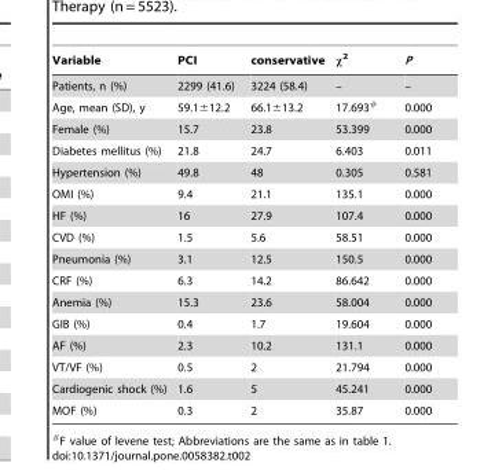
<table><thead><tr><td>Variable</td><td>PCI</td><td>conservative</td><td>x2</td><td>P</td></tr></thead><tbody><tr><td>Patients, n (%)</td><td>2299 (41.6)</td><td>3224 (58.4)</td><td>–</td><td>–</td></tr><tr><td>Age, mean (SD), y</td><td>59.1±12.2</td><td>66.1±13.2</td><td>17.693#</td><td>0.000</td></tr><tr><td>Female (%)</td><td>15.7</td><td>23.8</td><td>53.399</td><td>0.000</td></tr><tr><td>Diabetes mellitus (%)</td><td>21.8</td><td>24.7</td><td>6.403</td><td>0.011</td></tr><tr><td>Hypertension (%)</td><td>49.8</td><td>48</td><td>0.305</td><td>0.581</td></tr><tr><td>OMI (%)</td><td>9.4</td><td>21.1</td><td>135.1</td><td>0.000</td></tr><tr><td>HF (%)</td><td>16</td><td>27.9</td><td>107.4</td><td>0.000</td></tr><tr><td>CVD (%)</td><td>1.5</td><td>5.6</td><td>58.51</td><td>0.000</td></tr><tr><td>Pneumonia (%)</td><td>3.1</td><td>12.5</td><td>150.5</td><td>0.000</td></tr><tr><td>CRF (%)</td><td>6.3</td><td>14.2</td><td>86.642</td><td>0.000</td></tr><tr><td>Anemia (%)</td><td>15.3</td><td>23.6</td><td>58.004</td><td>0.000</td></tr><tr><td>GIB (%)</td><td>0.4</td><td>1.7</td><td>19.604</td><td>0.000</td></tr><tr><td>AF (%)</td><td>2.3</td><td>10.2</td><td>131.1</td><td>0.000</td></tr><tr><td>VT/VF (%)</td><td>0.5</td><td>2</td><td>21.794</td><td>0.000</td></tr><tr><td>Cardiogenic shock (%)</td><td>1.6</td><td>5</td><td>45.241</td><td>0.000</td></tr><tr><td>MOF (%)</td><td>0.3</td><td>2</td><td>35.87</td><td>0.000</td></tr></tbody></table>